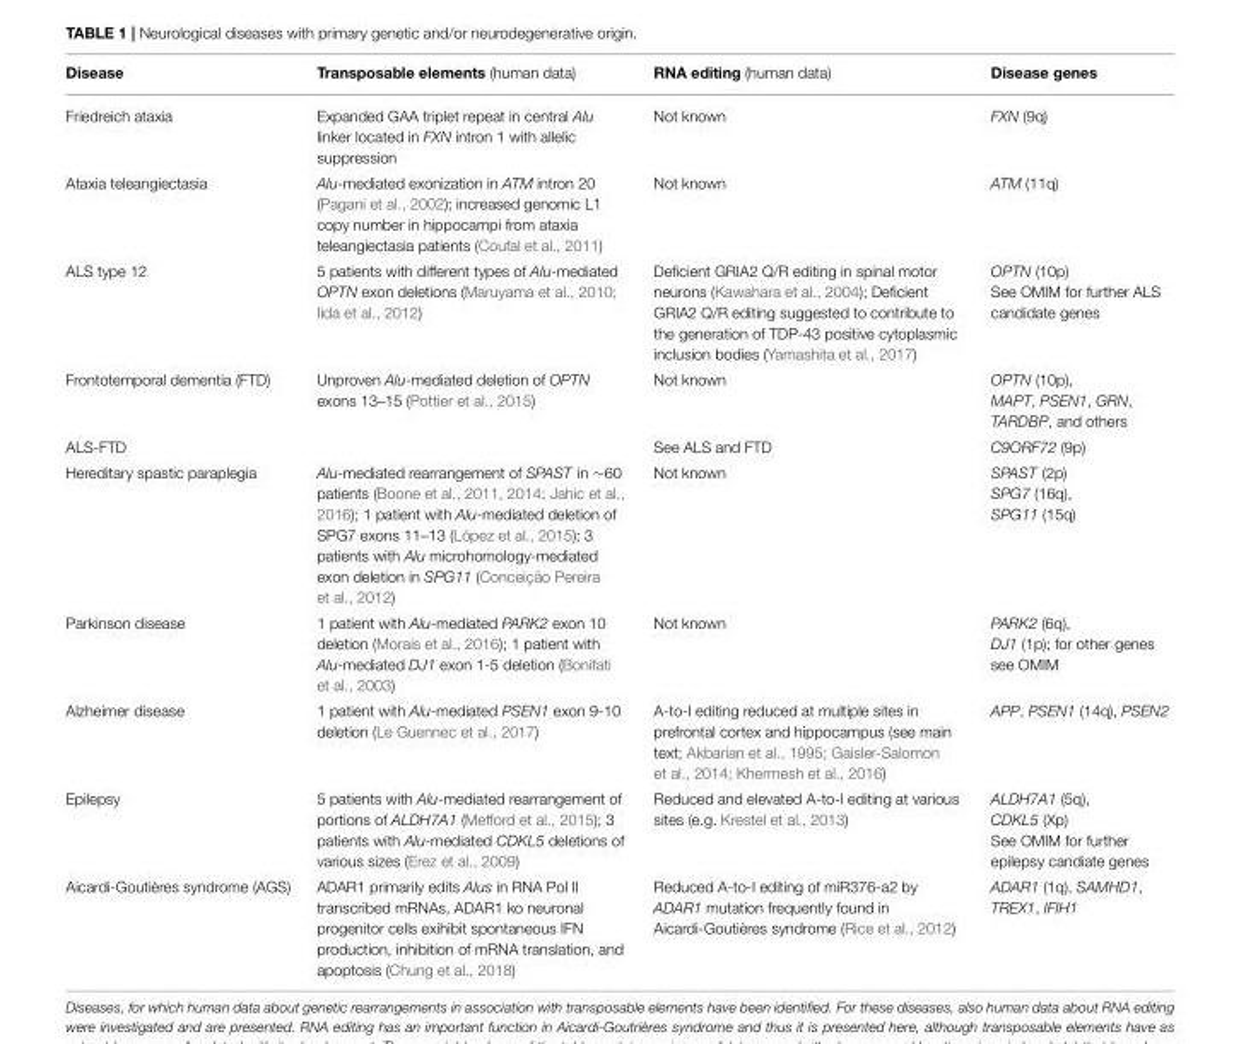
<table><thead><tr><td>Disease</td><td>Transposable elements (human data)</td><td>RNA editing (human data)</td><td>Disease genes</td></tr></thead><tbody><tr><td>Friedreich ataxia</td><td>Expanded GAA triplet repeat in central Alu linker located in FXN intron 1 with allelic suppression</td><td>Not known</td><td>FXN (9q)</td></tr><tr><td>Ataxia teleangiectasia</td><td>Alu-mediated exonization in ATM intron 20 (Pagani et al., 2002); increased genomic L1 copy number in hippocampi from ataxia teleangiectasia patients (Coufal et al., 2011)</td><td>Not known</td><td>ATM (11q)</td></tr><tr><td>ALS type 12</td><td>5 patients with different types of Alu-mediated OPTN exon deletions (Maruyama et al., 2010; Iida et al., 2012)</td><td>Deficient GRIA2 Q/R editing in spinal motor neurons (Kawahara et al., 2004); Deficient GRIA2 Q/R editing suggested to contribute to the generation of TDP-43 positive cytoplasmic inclusion bodies (Yamashita et al., 2017)</td><td>OPTN (10p) See OMIM for further ALS candidate genes</td></tr><tr><td>Frontotemporal dementia (FTD)</td><td>Unproven Alu-mediated deletion of OPTN exons 13–15 (Pottier et al., 2015)</td><td>Not known</td><td>OPTN (10p), MAPT, PSEN1, GRN, TARDBP, and others</td></tr><tr><td>ALS-FTD</td><td></td><td>See ALS and FTD</td><td>C9ORF72 (9p)</td></tr><tr><td>Hereditary spastic paraplegia</td><td>Alu-mediated rearrangement of SPAST in ∼60 patients (Boone et al., 2011, 2014; Jahic et al., 2016); 1 patient with Alu-mediated deletion of SPG7 exons 11–13 (López et al., 2015); 3 patients with Alu microhomology-mediated exon deletion in SPG11 (Conceição Pereira et al., 2012)</td><td>Not known</td><td>SPAST (2p) SPG7 (16q), SPG11 (15q)</td></tr><tr><td>Parkinson disease</td><td>1 patient with Alu-mediated PARK2 exon 10 deletion (Morais et al., 2016); 1 patient with Alu-mediated DJ1 exon 1-5 deletion (Bonifati et al., 2003)</td><td>Not known</td><td>PARK2 (6q), DJ1 (1p); for other genes see OMIM</td></tr><tr><td>Alzheimer disease</td><td>1 patient with Alu-mediated PSEN1 exon 9-10 deletion (Le Guennec et al., 2017)</td><td>A-to-I editing reduced at multiple sites in prefrontal cortex and hippocampus (see main text; Akbarian et al., 1995; Gaisler-Salomon et al., 2014; Khermesh et al., 2016)</td><td>APP, PSEN1 (14q), PSEN2</td></tr><tr><td>Epilepsy</td><td>5 patients with Alu-mediated rearrangement of portions of ALDH7A1 (Mefford et al., 2015); 3 patients with Alu-mediated CDKL5 deletions of various sizes (Erez et al., 2009)</td><td>Reduced and elevated A-to-I editing at various sites (e.g. Krestel et al., 2013)</td><td>ALDH7A1 (5q), CDKL5 (Xp) See OMIM for further epilepsy candiate genes</td></tr><tr><td>Aicardi-Goutières syndrome (AGS)</td><td>ADAR1 primarily edits Alus in RNA Pol II transcribed mRNAs, ADAR1 ko neuronal progenitor cells exihibit spontaneous IFN production, inhibition of mRNA translation, and apoptosis (Chung et al., 2018)</td><td>Reduced A-to-I editing of miR376-a2 by ADAR1 mutation frequently found in Aicardi-Goutières syndrome (Rice et al., 2012)</td><td>ADAR1 (1q), SAMHD1, TREX1, IFIH1</td></tr></tbody></table>